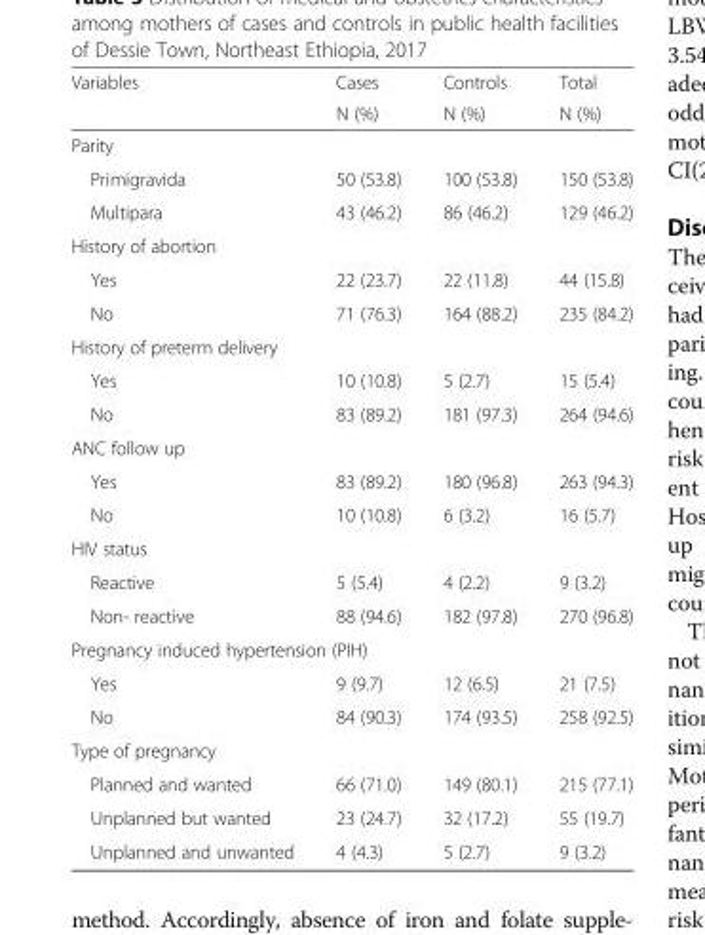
<table><thead><tr><td rowspan="2">Variables</td><td rowspan="2">Cases N (%)</td><td rowspan="2">Controls N (%)</td><td rowspan="2">Total N (%)</td></tr><tr></tr></thead><tbody><tr><td colspan="4">Parity</td></tr><tr><td>Primigravida</td><td>50 (53.8)</td><td>100 (53.8)</td><td>150 (53.8)</td></tr><tr><td>Multipara</td><td>43 (46.2)</td><td>86 (46.2)</td><td>129 (46.2)</td></tr><tr><td colspan="4">History of abortion</td></tr><tr><td>Yes</td><td>22 (23.7)</td><td>22 (11.8)</td><td>44 (15.8)</td></tr><tr><td>No</td><td>71 (76.3)</td><td>164 (88.2)</td><td>235 (84.2)</td></tr><tr><td colspan="4">History of preterm delivery</td></tr><tr><td>Yes</td><td>10 (10.8)</td><td>5 (2.7)</td><td>15 (5.4)</td></tr><tr><td>No</td><td>83 (89.2)</td><td>181 (97.3)</td><td>264 (94.6)</td></tr><tr><td colspan="4">ANC follow up</td></tr><tr><td>Yes</td><td>83 (89.2)</td><td>180 (96.8)</td><td>263 (94.3)</td></tr><tr><td>No</td><td>10 (10.8)</td><td>6 (3.2)</td><td>16 (5.7)</td></tr><tr><td colspan="4">HIV status</td></tr><tr><td>Reactive</td><td>5 (5.4)</td><td>4 (2.2)</td><td>9 (3.2)</td></tr><tr><td>Non- reactive</td><td>88 (94.6)</td><td>182 (97.8)</td><td>270 (96.8)</td></tr><tr><td colspan="4">Pregnancy induced hypertension (PIH)</td></tr><tr><td>Yes</td><td>9 (9.7)</td><td>12 (6.5)</td><td>21 (7.5)</td></tr><tr><td>No</td><td>84 (90.3)</td><td>174 (93.5)</td><td>258 (92.5)</td></tr><tr><td colspan="4">Type of pregnancy</td></tr><tr><td>Planned and wanted</td><td>66 (71.0)</td><td>149 (80.1)</td><td>215 (77.1)</td></tr><tr><td>Unplanned but wanted</td><td>23 (24.7)</td><td>32 (17.2)</td><td>55 (19.7)</td></tr><tr><td>Unplanned and unwanted</td><td>4 (4.3)</td><td>5 (2.7)</td><td>9 (3.2)</td></tr></tbody></table>